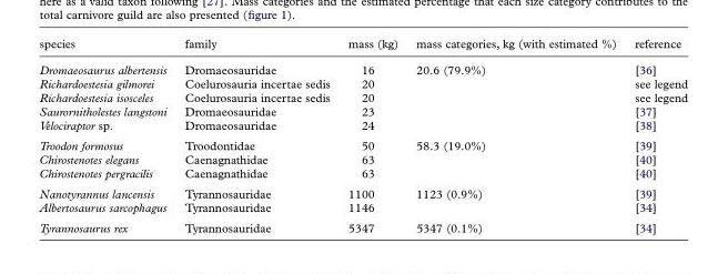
<table><thead><tr><td>species</td><td>family</td><td>mass (kg)</td><td>mass categories, kg (with estimated %)</td><td>reference</td></tr></thead><tbody><tr><td>Dromaeosaurus albertensis</td><td>Dromaeosauridae</td><td>16</td><td rowspan="5">20.6 (79.9%)</td><td>[36]</td></tr><tr><td>Richardoestesia gilmorei</td><td>Coelurosauria incertae sedis</td><td>20</td><td>see legend</td></tr><tr><td>Richardoestesia isosceles</td><td>Coelurosauria incertae sedis</td><td>20</td><td>see legend</td></tr><tr><td>Saurornitholestes langstoni</td><td>Dromaeosauridae</td><td>23</td><td>[37]</td></tr><tr><td>Velociraptor sp.</td><td>Dromaeosauridae</td><td>24</td><td>[38]</td></tr><tr><td>Troodon formosus</td><td>Troodontidae</td><td>50</td><td rowspan="3">58.3 (19.0%)</td><td>[39]</td></tr><tr><td>Chirostenotes elegans</td><td>Caenagnathidae</td><td>63</td><td>[40]</td></tr><tr><td>Chirostenotes pergracilis</td><td>Caenagnathidae</td><td>63</td><td>[40]</td></tr><tr><td>Nanotyrannus lancensis</td><td>Tyrannosauridae</td><td>1100</td><td rowspan="2">1123 (0.9%)</td><td>[39]</td></tr><tr><td>Albertosaurus sarcophagus</td><td>Tyrannosauridae</td><td>1146</td><td>[34]</td></tr><tr><td>Tyrannosaurus rex</td><td>Tyrannosauridae</td><td>5347</td><td>5347 (0.1%)</td><td>[34]</td></tr></tbody></table>